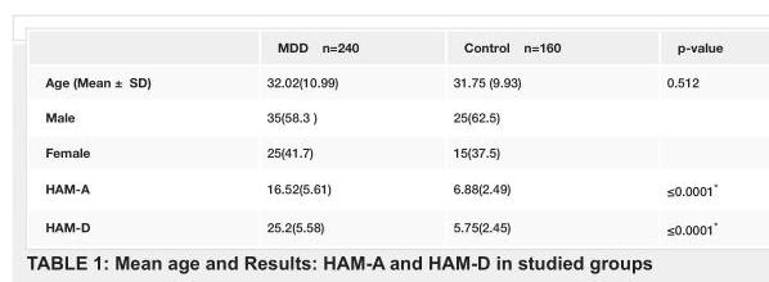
<table><thead><tr><td></td><td>MDD n=240</td><td>Control n=160</td><td>p-value</td></tr></thead><tbody><tr><td>Age (Mean ± SD)</td><td>32.02(10.99)</td><td>31.75 (9.93)</td><td>0.512</td></tr><tr><td>Male</td><td>35(58.3 )</td><td>25(62.5)</td><td></td></tr><tr><td>Female</td><td>25(41.7)</td><td>15(37.5)</td><td></td></tr><tr><td>HAM-A</td><td>16.52(5.61)</td><td>6.88(2.49)</td><td>≤0.0001*</td></tr><tr><td>HAM-D</td><td>25.2(5.58)</td><td>5.75(2.45)</td><td>≤0.0001*</td></tr></tbody></table>